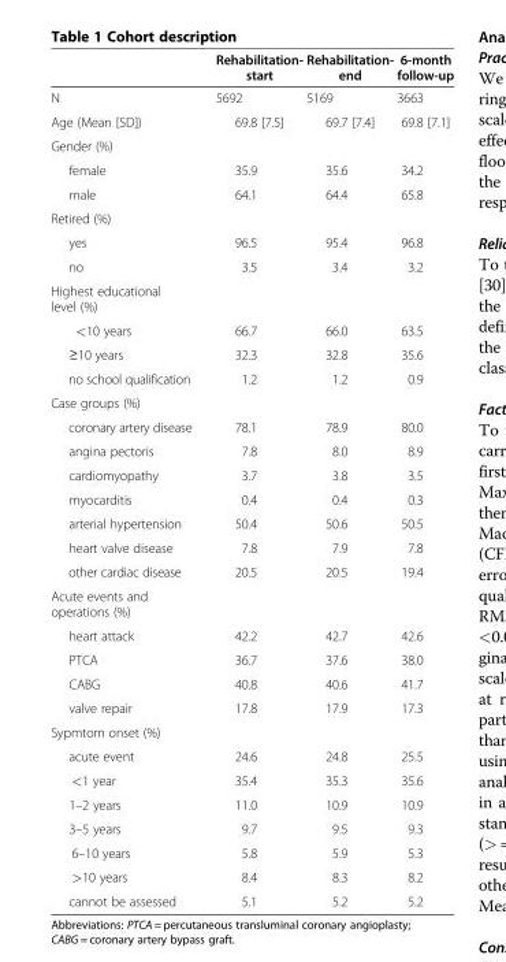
<table><thead><tr><td></td><td>Rehabilitation- start</td><td>Rehabilitation- end</td><td>6-month follow-up</td></tr></thead><tbody><tr><td>N</td><td>5692</td><td>5169</td><td>3663</td></tr><tr><td>Age (Mean [SD])</td><td>69.8 [7.5]</td><td>69.7 [7.4]</td><td>69.8 [7.1]</td></tr><tr><td colspan="4">Gender (%)</td></tr><tr><td>female</td><td>35.9</td><td>35.6</td><td>34.2</td></tr><tr><td>male</td><td>64.1</td><td>64.4</td><td>65.8</td></tr><tr><td colspan="4">Retired (%)</td></tr><tr><td>yes</td><td>96.5</td><td>95.4</td><td>96.8</td></tr><tr><td>no</td><td>3.5</td><td>3.4</td><td>3.2</td></tr><tr><td colspan="4">Highest educational level (%)</td></tr><tr><td>&lt;10 years</td><td>66.7</td><td>66.0</td><td>63.5</td></tr><tr><td>≥10 years</td><td>32.3</td><td>32.8</td><td>35.6</td></tr><tr><td>no school qualification</td><td>1.2</td><td>1.2</td><td>0.9</td></tr><tr><td colspan="4">Case groups (%)</td></tr><tr><td>coronary artery disease</td><td>78.1</td><td>78.9</td><td>80.0</td></tr><tr><td>angina pectoris</td><td>7.8</td><td>8.0</td><td>8.9</td></tr><tr><td>cardiomyopathy</td><td>3.7</td><td>3.8</td><td>3.5</td></tr><tr><td>myocarditis</td><td>0.4</td><td>0.4</td><td>0.3</td></tr><tr><td>arterial hypertension</td><td>50.4</td><td>50.6</td><td>50.5</td></tr><tr><td>heart valve disease</td><td>7.8</td><td>7.9</td><td>7.8</td></tr><tr><td>other cardiac disease</td><td>20.5</td><td>20.5</td><td>19.4</td></tr><tr><td colspan="4">Acute events and operations (%)</td></tr><tr><td>heart attack</td><td>42.2</td><td>42.7</td><td>42.6</td></tr><tr><td>PTCA</td><td>36.7</td><td>37.6</td><td>38.0</td></tr><tr><td>CABG</td><td>40.8</td><td>40.6</td><td>41.7</td></tr><tr><td>valve repair</td><td>17.8</td><td>17.9</td><td>17.3</td></tr><tr><td colspan="4">Sypmtom onset (%)</td></tr><tr><td>acute event</td><td>24.6</td><td>24.8</td><td>25.5</td></tr><tr><td>&lt;1 year</td><td>35.4</td><td>35.3</td><td>35.6</td></tr><tr><td>1–2 years</td><td>11.0</td><td>10.9</td><td>10.9</td></tr><tr><td>3–5 years</td><td>9.7</td><td>9.5</td><td>9.3</td></tr><tr><td>6–10 years</td><td>5.8</td><td>5.9</td><td>5.3</td></tr><tr><td>&gt;10 years</td><td>8.4</td><td>8.3</td><td>8.2</td></tr><tr><td>cannot be assessed</td><td>5.1</td><td>5.2</td><td>5.2</td></tr></tbody></table>